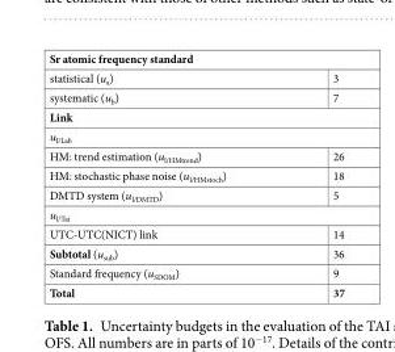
<table><tbody><tr><td colspan="2">Sr atomic frequency standard</td></tr><tr><td>statistical (u<sub>a</sub>)</td><td>3</td></tr><tr><td>systematic (u<sub>b</sub>)</td><td>7</td></tr><tr><td colspan="2">Link</td></tr><tr><td colspan="2">u<sub>l/Lab</sub></td></tr><tr><td>HM: trend estimation (u<sub>l/HMtrend</sub>)</td><td>26</td></tr><tr><td>HM: stochastic phase noise (u<sub>l/HMstoch</sub>)</td><td>18</td></tr><tr><td>DMTD system (u<sub>l/DMTD</sub>)</td><td>5</td></tr><tr><td colspan="2">u<sub>l/Tai</sub></td></tr><tr><td>UTC-UTC(NICT) link</td><td>14</td></tr><tr><td>Subtotal (u<sub>sub</sub>)</td><td>36</td></tr><tr><td>Standard frequency (u<sub>SDOM</sub>)</td><td>9</td></tr><tr><td>Total</td><td>37</td></tr></tbody></table>